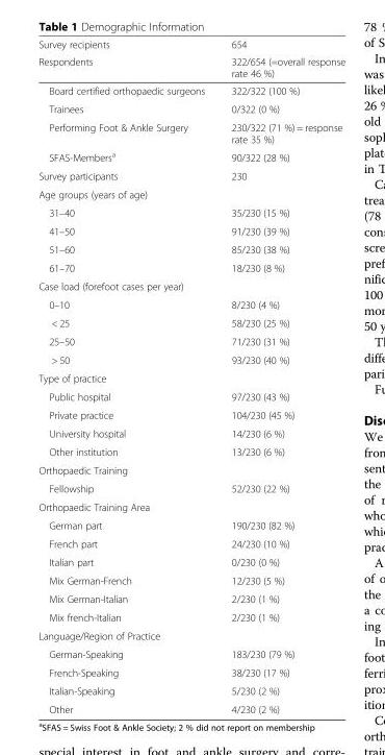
<table><thead><tr><td rowspan="2">Survey recipients Respondents</td><td rowspan="2">654 322/654 (=overall response rate 46 %)</td></tr><tr></tr></thead><tbody><tr><td>Board certified orthopaedic surgeons</td><td>322/322 (100 %)</td></tr><tr><td>Trainees</td><td>0/322 (0 %)</td></tr><tr><td>Performing Foot &amp; Ankle Surgery</td><td>230/322 (71 %) = response rate 35 %)</td></tr><tr><td>SFAS-Members<sup>a</sup></td><td>90/322 (28 %)</td></tr><tr><td>Survey participants</td><td>230</td></tr><tr><td colspan="2">Age groups (years of age)</td></tr><tr><td>31–40</td><td>35/230 (15 %)</td></tr><tr><td>41–50</td><td>91/230 (39 %)</td></tr><tr><td>51–60</td><td>85/230 (38 %)</td></tr><tr><td>61–70</td><td>18/230 (8 %)</td></tr><tr><td colspan="2">Case load (forefoot cases per year)</td></tr><tr><td>0–10</td><td>8/230 (4 %)</td></tr><tr><td>&lt; 25</td><td>58/230 (25 %)</td></tr><tr><td>25–50</td><td>71/230 (31 %)</td></tr><tr><td>&gt; 50</td><td>93/230 (40 %)</td></tr><tr><td colspan="2">Type of practice</td></tr><tr><td>Public hospital</td><td>97/230 (43 %)</td></tr><tr><td>Private practice</td><td>104/230 (45 %)</td></tr><tr><td>University hospital</td><td>14/230 (6 %)</td></tr><tr><td>Other institution</td><td>13/230 (6 %)</td></tr><tr><td colspan="2">Orthopaedic Training</td></tr><tr><td>Fellowship</td><td>52/230 (22 %)</td></tr><tr><td colspan="2">Orthopaedic Training Area</td></tr><tr><td>German part</td><td>190/230 (82 %)</td></tr><tr><td>French part</td><td>24/230 (10 %)</td></tr><tr><td>Italian part</td><td>0/230 (0 %)</td></tr><tr><td>Mix German-French</td><td>12/230 (5 %)</td></tr><tr><td>Mix German-Italian</td><td>2/230 (1 %)</td></tr><tr><td>Mix french-Italian</td><td>2/230 (1 %)</td></tr><tr><td colspan="2">Language/Region of Practice</td></tr><tr><td>German-Speaking</td><td>183/230 (79 %)</td></tr><tr><td>French-Speaking</td><td>38/230 (17 %)</td></tr><tr><td>Italian-Speaking</td><td>5/230 (2 %)</td></tr><tr><td>Other</td><td>4/230 (2 %)</td></tr></tbody></table>